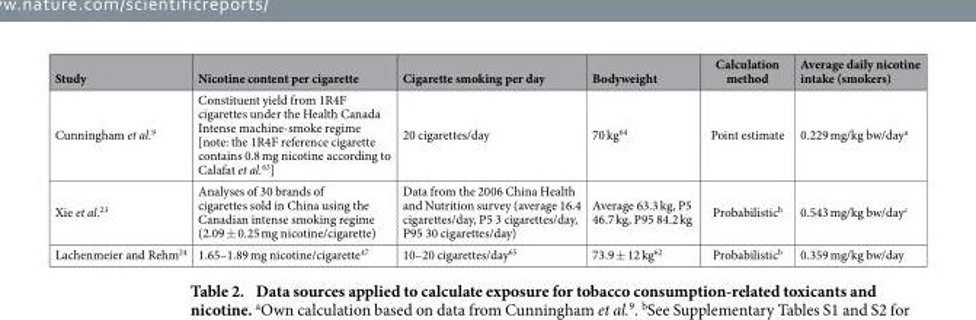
<table><thead><tr><td>Study</td><td>Nicotine content per cigarette</td><td>Cigarette smoking per day</td><td>Bodyweight</td><td>Calculation method</td><td>Average daily nicotine intake (smokers)</td></tr></thead><tbody><tr><td>Cunningham et al.<sup>9</sup></td><td>Constituent yield from 1R4F cigarettes under the Health Canada Intense machine-smoke regime [note: the 1R4F reference cigarette contains 0.8 mg nicotine according to Calafat et al.<sup>63</sup>]</td><td>20 cigarettes/day</td><td>70 kg<sup>64</sup></td><td>Point estimate</td><td>0.229 mg/kg bw/day<sup>a</sup></td></tr><tr><td>Xie et al.<sup>23</sup></td><td>Analyses of 30 brands of cigarettes sold in China using the Canadian intense smoking regime (2.09 ± 0.25 mg nicotine/cigarette)</td><td>Data from the 2006 China Health and Nutrition survey (average 16.4 cigarettes/day, P5 3 cigarettes/day, P95 30 cigarettes/day)</td><td>Average 63.3 kg, P5 46.7 kg, P95 84.2 kg</td><td>Probabilistic<sup>b</sup></td><td>0.543 mg/kg bw/day<sup>c</sup></td></tr><tr><td>Lachenmeier and Rehm<sup>24</sup></td><td>1.65–1.89 mg nicotine/cigarette<sup>47</sup></td><td>10–20 cigarettes/day<sup>65</sup></td><td>73.9 ± 12 kg<sup>62</sup></td><td>Probabilistic<sup>b</sup></td><td>0.359 mg/kg bw/day</td></tr></tbody></table>